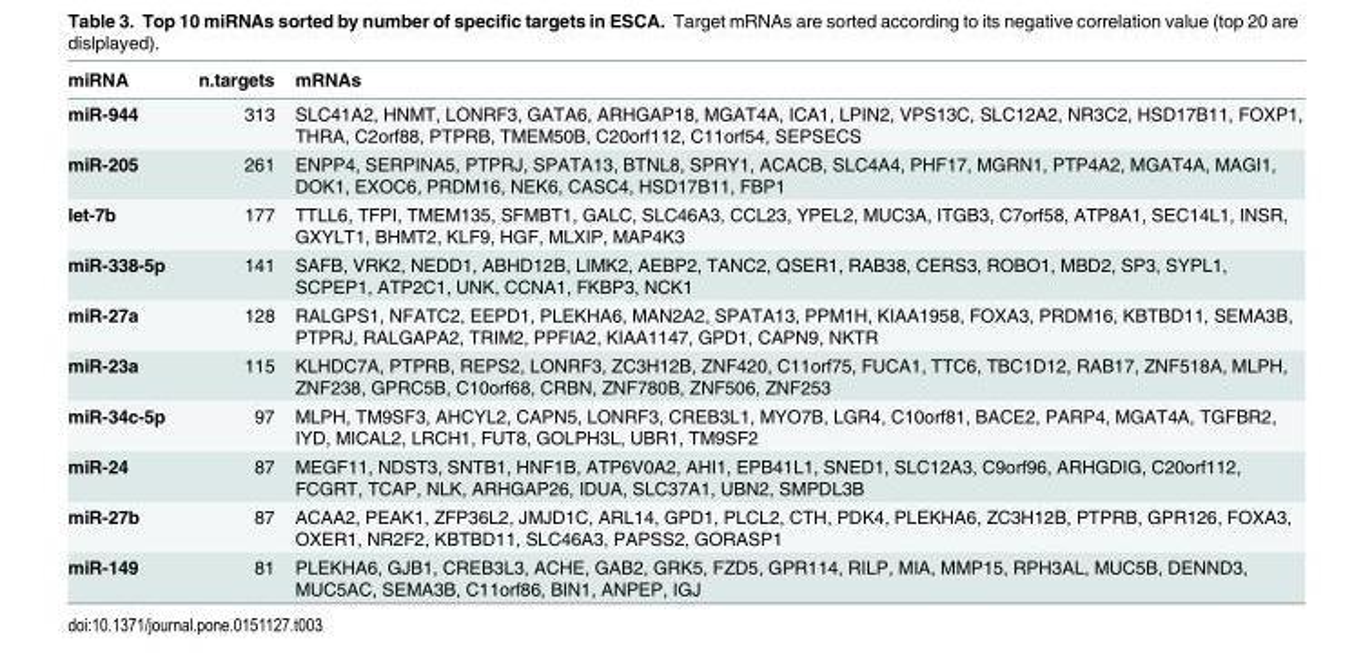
<table><thead><tr><td>miRNA</td><td>n.targets</td><td>mRNAs</td></tr></thead><tbody><tr><td>miR-944</td><td>313</td><td>SLC41A2, HNMT, LONRF3, GATA6, ARHGAP18, MGAT4A, ICA1, LPIN2, VPS13C, SLC12A2, NR3C2, HSD17B11, FOXP1, THRA, C2orf88, PTPRB, TMEM50B, C20orf112, C11orf54, SEPSECS</td></tr><tr><td>miR-205</td><td>261</td><td>ENPP4, SERPINA5, PTPRJ, SPATA13, BTNL8, SPRY1, ACACB, SLC4A4, PHF17, MGRN1, PTP4A2, MGAT4A, MAGI1, DOK1, EXOC6, PRDM16, NEK6, CASC4, HSD17B11, FBP1</td></tr><tr><td>let-7b</td><td>177</td><td>TTLL6, TFPI, TMEM135, SFMBT1, GALC, SLC46A3, CCL23, YPEL2, MUC3A, ITGB3, C7orf58, ATP8A1, SEC14L1, INSR, GXYLT1, BHMT2, KLF9, HGF, MLXIP, MAP4K3</td></tr><tr><td>miR-338-5p</td><td>141</td><td>SAFB, VRK2, NEDD1, ABHD12B, LIMK2, AEBP2, TANC2, QSER1, RAB38, CERS3, ROBO1, MBD2, SP3, SYPL1, SCPEP1, ATP2C1, UNK, CCNA1, FKBP3, NCK1</td></tr><tr><td>miR-27a</td><td>128</td><td>RALGPS1, NFATC2, EEPD1, PLEKHA6, MAN2A2, SPATA13, PPM1H, KIAA1958, FOXA3, PRDM16, KBTBD11, SEMA3B, PTPRJ, RALGAPA2, TRIM2, PPFIA2, KIAA1147, GPD1, CAPN9, NKTR</td></tr><tr><td>miR-23a</td><td>115</td><td>KLHDC7A, PTPRB, REPS2, LONRF3, ZC3H12B, ZNF420, C11orf75, FUCA1, TTC6, TBC1D12, RAB17, ZNF518A, MLPH, ZNF238, GPRC5B, C10orf68, CRBN, ZNF780B, ZNF506, ZNF253</td></tr><tr><td>miR-34c-5p</td><td>97</td><td>MLPH, TM9SF3, AHCYL2, CAPN5, LONRF3, CREB3L1, MYO7B, LGR4, C10orf81, BACE2, PARP4, MGAT4A, TGFBR2, IYD, MICAL2, LRCH1, FUT8, GOLPH3L, UBR1, TM9SF2</td></tr><tr><td>miR-24</td><td>87</td><td>MEGF11, NDST3, SNTB1, HNF1B, ATP6V0A2, AHI1, EPB41L1, SNED1, SLC12A3, C9orf96, ARHGDIG, C20orf112, FCGRT, TCAP, NLK, ARHGAP26, IDUA, SLC37A1, UBN2, SMPDL3B</td></tr><tr><td>miR-27b</td><td>87</td><td>ACAA2, PEAK1, ZFP36L2, JMJD1C, ARL14, GPD1, PLCL2, CTH, PDK4, PLEKHA6, ZC3H12B, PTPRB, GPR126, FOXA3, OXER1, NR2F2, KBTBD11, SLC46A3, PAPSS2, GORASP1</td></tr><tr><td>miR-149</td><td>81</td><td>PLEKHA6, GJB1, CREB3L3, ACHE, GAB2, GRK5, FZD5, GPR114, RILP, MIA, MMP15, RPH3AL, MUC5B, DENND3, MUC5AC, SEMA3B, C11orf86, BIN1, ANPEP, IGJ</td></tr></tbody></table>